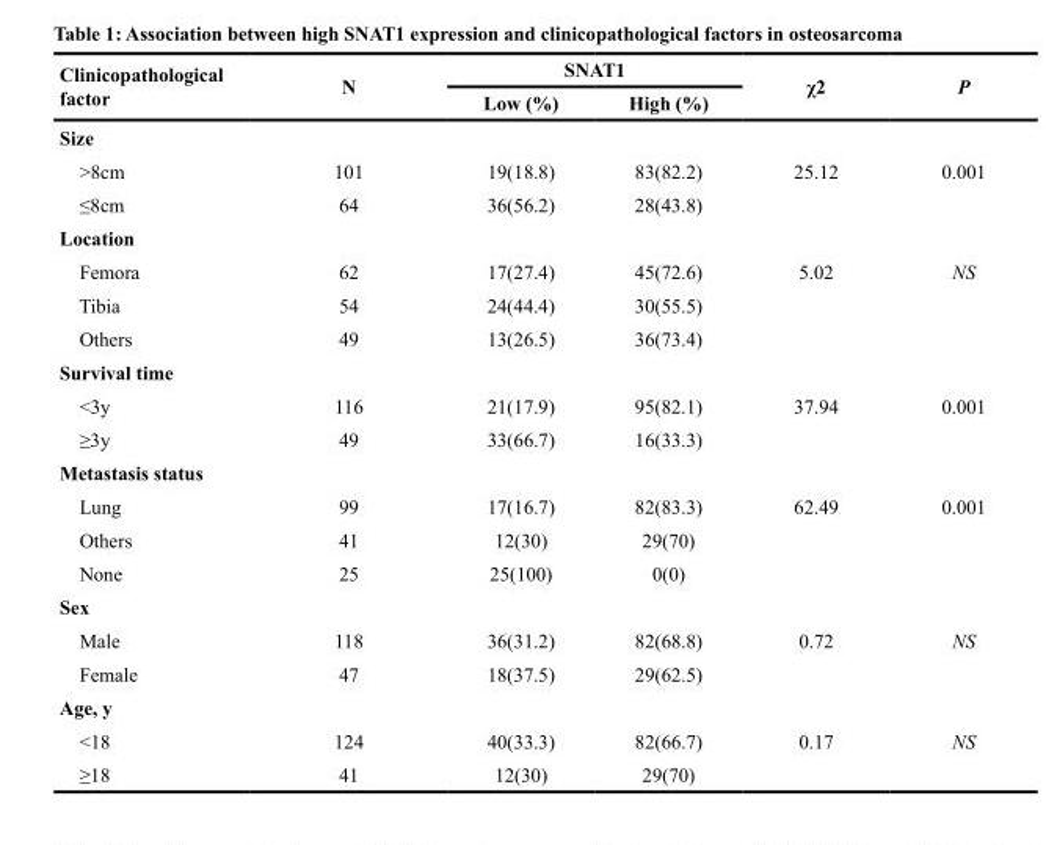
<table><thead><tr><td rowspan="2">Clinicopathological factor</td><td rowspan="2">N</td><td colspan="2">SNAT1</td><td rowspan="2">χ2</td><td rowspan="2">P</td></tr><tr><td>Low (%)</td><td>High (%)</td></tr></thead><tbody><tr><td colspan="6">Size</td></tr><tr><td>&gt;8cm</td><td>101</td><td>19(18.8)</td><td>83(82.2)</td><td>25.12</td><td>0.001</td></tr><tr><td>≤8cm</td><td>64</td><td>36(56.2)</td><td>28(43.8)</td><td></td><td></td></tr><tr><td colspan="6">Location</td></tr><tr><td>Femora</td><td>62</td><td>17(27.4)</td><td>45(72.6)</td><td>5.02</td><td>NS</td></tr><tr><td>Tibia</td><td>54</td><td>24(44.4)</td><td>30(55.5)</td><td></td><td></td></tr><tr><td>Others</td><td>49</td><td>13(26.5)</td><td>36(73.4)</td><td></td><td></td></tr><tr><td colspan="6">Survival time</td></tr><tr><td>&lt;3y</td><td>116</td><td>21(17.9)</td><td>95(82.1)</td><td>37.94</td><td>0.001</td></tr><tr><td>≥3y</td><td>49</td><td>33(66.7)</td><td>16(33.3)</td><td></td><td></td></tr><tr><td colspan="6">Metastasis status</td></tr><tr><td>Lung</td><td>99</td><td>17(16.7)</td><td>82(83.3)</td><td>62.49</td><td>0.001</td></tr><tr><td>Others</td><td>41</td><td>12(30)</td><td>29(70)</td><td></td><td></td></tr><tr><td>None</td><td>25</td><td>25(100)</td><td>0(0)</td><td></td><td></td></tr><tr><td colspan="6">Sex</td></tr><tr><td>Male</td><td>118</td><td>36(31.2)</td><td>82(68.8)</td><td>0.72</td><td>NS</td></tr><tr><td>Female</td><td>47</td><td>18(37.5)</td><td>29(62.5)</td><td></td><td></td></tr><tr><td colspan="6">Age, y</td></tr><tr><td>&lt;18</td><td>124</td><td>40(33.3)</td><td>82(66.7)</td><td>0.17</td><td>NS</td></tr><tr><td>≥18</td><td>41</td><td>12(30)</td><td>29(70)</td><td></td><td></td></tr></tbody></table>